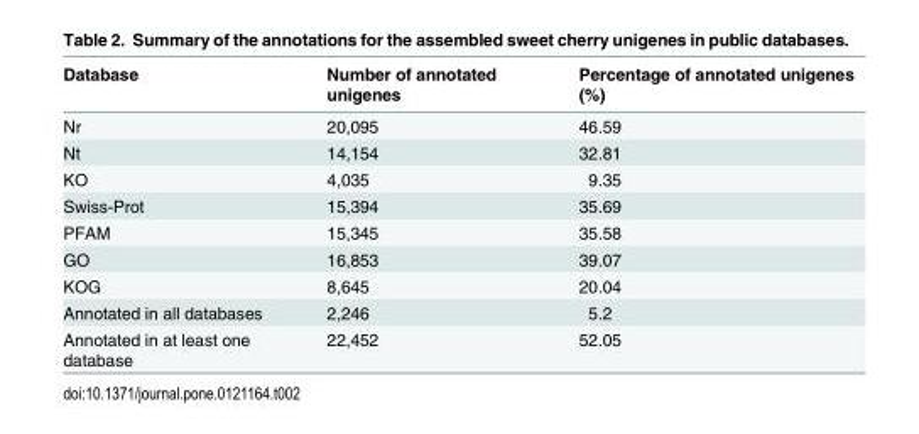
<table><thead><tr><td>Database</td><td>Number of annotated unigenes</td><td>Percentage of annotated unigenes (%)</td></tr></thead><tbody><tr><td>Nr</td><td>20,095</td><td>46.59</td></tr><tr><td>Nt</td><td>14,154</td><td>32.81</td></tr><tr><td>KO</td><td>4,035</td><td>9.35</td></tr><tr><td>Swiss-Prot</td><td>15,394</td><td>35.69</td></tr><tr><td>PFAM</td><td>15,345</td><td>35.58</td></tr><tr><td>GO</td><td>16,853</td><td>39.07</td></tr><tr><td>KOG</td><td>8,645</td><td>20.04</td></tr><tr><td>Annotated in all databases</td><td>2,246</td><td>5.2</td></tr><tr><td>Annotated in at least one database</td><td>22,452</td><td>52.05</td></tr></tbody></table>